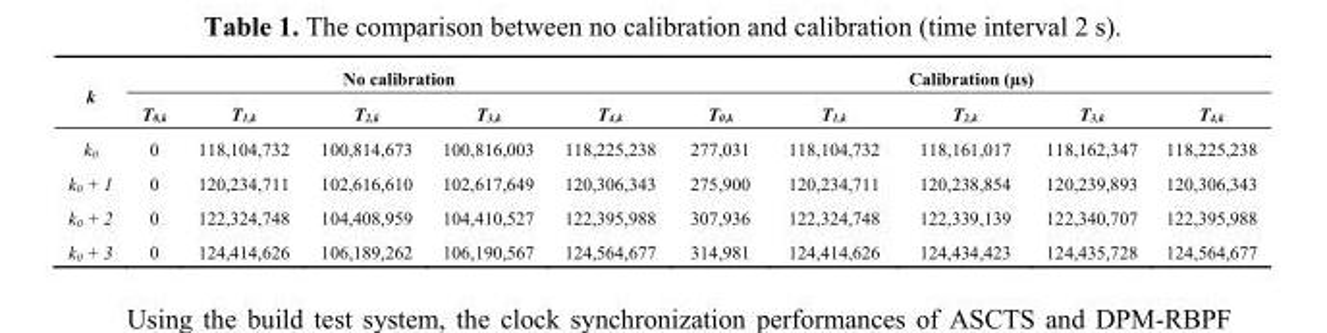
<table><thead><tr><td rowspan="2">k</td><td colspan="5">No calibration</td><td colspan="5">Calibration (µs)</td></tr><tr><td>T<sub>0,k</sub></td><td>T<sub>1,k</sub></td><td>T<sub>2,k</sub></td><td>T<sub>3,k</sub></td><td>T<sub>4,k</sub></td><td>T<sub>0,k</sub></td><td>T<sub>1,k</sub></td><td>T<sub>2,k</sub></td><td>T<sub>3,k</sub></td><td>T<sub>4,k</sub></td></tr></thead><tbody><tr><td>k<sub>0</sub></td><td>0</td><td>118,104,732</td><td>100,814,673</td><td>100,816,003</td><td>118,225,238</td><td>277,031</td><td>118,104,732</td><td>118,161,017</td><td>118,162,347</td><td>118,225,238</td></tr><tr><td>k<sub>0</sub> + 1</td><td>0</td><td>120,234,711</td><td>102,616,610</td><td>102,617,649</td><td>120,306,343</td><td>275,900</td><td>120,234,711</td><td>120,238,854</td><td>120,239,893</td><td>120,306,343</td></tr><tr><td>k<sub>0</sub> + 2</td><td>0</td><td>122,324,748</td><td>104,408,959</td><td>104,410,527</td><td>122,395,988</td><td>307,936</td><td>122,324,748</td><td>122,339,139</td><td>122,340,707</td><td>122,395,988</td></tr><tr><td>k<sub>0</sub> + 3</td><td>0</td><td>124,414,626</td><td>106,189,262</td><td>106,190,567</td><td>124,564,677</td><td>314,981</td><td>124,414,626</td><td>124,434,423</td><td>124,435,728</td><td>124,564,677</td></tr></tbody></table>